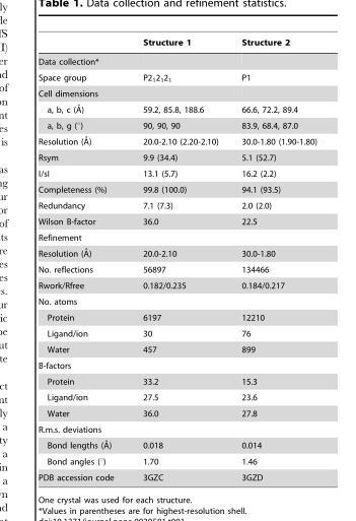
<table><thead><tr><td></td><td>Structure 1</td><td>Structure 2</td></tr></thead><tbody><tr><td colspan="3">Data collection*</td></tr><tr><td>Space group</td><td>P2<sub>1</sub>2<sub>1</sub>2<sub>1</sub></td><td>P1</td></tr><tr><td colspan="3">Cell dimensions</td></tr><tr><td>a, b, c (A˚)</td><td>59.2, 85.8, 188.6</td><td>66.6, 72.2, 89.4</td></tr><tr><td>a, b, g (°)</td><td>90, 90, 90</td><td>83.9, 68.4, 87.0</td></tr><tr><td>Resolution (A˚)</td><td>20.0-2.10 (2.20-2.10)</td><td>30.0-1.80 (1.90-1.80)</td></tr><tr><td>Rsym</td><td>9.9 (34.4)</td><td>5.1 (52.7)</td></tr><tr><td>I/sI</td><td>13.1 (5.7)</td><td>16.2 (2.2)</td></tr><tr><td>Completeness (%)</td><td>99.8 (100.0)</td><td>94.1 (93.5)</td></tr><tr><td>Redundancy</td><td>7.1 (7.3)</td><td>2.0 (2.0)</td></tr><tr><td>Wilson B-factor</td><td>36.0</td><td>22.5</td></tr><tr><td colspan="3">Refinement</td></tr><tr><td>Resolution (A˚)</td><td>20.0-2.10</td><td>30.0-1.80</td></tr><tr><td>No. reflections</td><td>56897</td><td>134466</td></tr><tr><td>Rwork/Rfree</td><td>0.182/0.235</td><td>0.184/0.217</td></tr><tr><td colspan="3">No. atoms</td></tr><tr><td>Protein</td><td>6197</td><td>12210</td></tr><tr><td>Ligand/ion</td><td>30</td><td>76</td></tr><tr><td>Water</td><td>457</td><td>899</td></tr><tr><td colspan="3">B-factors</td></tr><tr><td>Protein</td><td>33.2</td><td>15.3</td></tr><tr><td>Ligand/ion</td><td>27.5</td><td>23.6</td></tr><tr><td>Water</td><td>36.0</td><td>27.8</td></tr><tr><td colspan="3">R.m.s. deviations</td></tr><tr><td>Bond lengths (A˚)</td><td>0.018</td><td>0.014</td></tr><tr><td>Bond angles (°)</td><td>1.70</td><td>1.46</td></tr><tr><td>PDB accession code</td><td>3GZC</td><td>3GZD</td></tr></tbody></table>